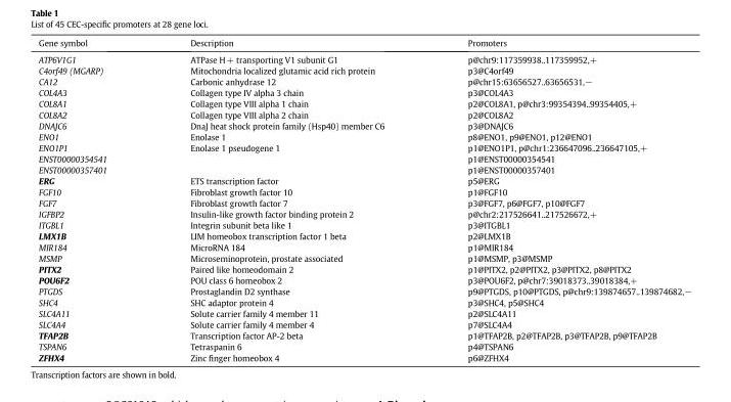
<table><thead><tr><td>Gene symbol</td><td>Description</td><td>Promoters</td></tr></thead><tbody><tr><td>ATP6V1G1</td><td>ATPase H+ transporting V1 subunit G1</td><td>p@chr9:117359938..117359952,+</td></tr><tr><td>C4orf49 (MGARP)</td><td>Mitochondria localized glutamic acid rich protein</td><td>p3@C4orf49</td></tr><tr><td>CA12</td><td>Carbonic anhydrase 12</td><td>p@chr15:63656527..63656531,−</td></tr><tr><td>COL4A3</td><td>Collagen type IV alpha 3 chain</td><td>p3@COL4A3</td></tr><tr><td>COL8A1</td><td>Collagen type VIII alpha 1 chain</td><td>p2@COL8A1, p@chr3:99354394..99354405,+</td></tr><tr><td>COL8A2</td><td>Collagen type VIII alpha 2 chain</td><td>p2@COL8A2</td></tr><tr><td>DNAJC6</td><td>DnaJ heat shock protein family (Hsp40) member C6</td><td>p3@DNAJC6</td></tr><tr><td>ENO1</td><td>Enolase 1</td><td>p8@ENO1, p9@ENO1, p12@ENO1</td></tr><tr><td>ENO1P1</td><td>Enolase 1 pseudogene 1</td><td>p1@ENO1P1, p@chr1:236647096..236647105,+</td></tr><tr><td>ENST00000354541</td><td></td><td>p1@ENST00000354541</td></tr><tr><td>ENST00000357401</td><td></td><td>p1@ENST00000357401</td></tr><tr><td>ERG</td><td>ETS transcription factor</td><td>p5@ERG</td></tr><tr><td>FGF10</td><td>Fibroblast growth factor 10</td><td>p1@FGF10</td></tr><tr><td>FGF7</td><td>Fibroblast growth factor 7</td><td>p3@FGF7, p6@FGF7, p10@FGF7</td></tr><tr><td>IGFBP2</td><td>Insulin-like growth factor binding protein 2</td><td>p@chr2:217526641..217526672,+</td></tr><tr><td>ITGBL1</td><td>Integrin subunit beta like 1</td><td>p3@ITGBL1</td></tr><tr><td>LMX1B</td><td>LIM homeobox transcription factor 1 beta</td><td>p2@LMX1B</td></tr><tr><td>MIR184</td><td>MicroRNA 184</td><td>p1@MIR184</td></tr><tr><td>MSMP</td><td>Microseminoprotein, prostate associated</td><td>p1@MSMP, p3@MSMP</td></tr><tr><td>PITX2</td><td>Paired like homeodomain 2</td><td>p1@PITX2, p2@PITX2, p3@PITX2, p8@PITX2</td></tr><tr><td>POU6F2</td><td>POU class 6 homeobox 2</td><td>p3@POU6F2, p@chr7:39018373..39018384,+</td></tr><tr><td>PTGDS</td><td>Prostaglandin D2 synthase</td><td>p9@PTGDS, p10@PTGDS, p@chr9:139874657..139874682,−</td></tr><tr><td>SHC4</td><td>SHC adaptor protein 4</td><td>p3@SHC4, p5@SHC4</td></tr><tr><td>SLC4A11</td><td>Solute carrier family 4 member 11</td><td>p2@SLC4A11</td></tr><tr><td>SLC4A4</td><td>Solute carrier family 4 member 4</td><td>p7@SLC4A4</td></tr><tr><td>TFAP2B</td><td>Transcription factor AP-2 beta</td><td>p1@TFAP2B, p2@TFAP2B, p3@TFAP2B, p9@TFAP2B</td></tr><tr><td>TSPAN6</td><td>Tetraspanin 6</td><td>p4@TSPAN6</td></tr><tr><td>ZFHX4</td><td>Zinc finger homeobox 4</td><td>p6@ZFHX4</td></tr></tbody></table>